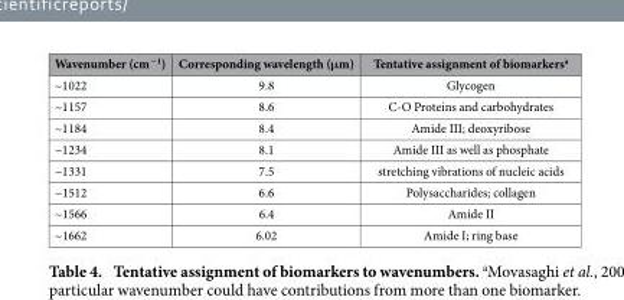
<table><thead><tr><td>Wavenumber (cm<sup>−1</sup>)</td><td>Corresponding wavelength (μm)</td><td>Tentative assignment of biomarkers<sup>a</sup></td></tr></thead><tbody><tr><td>~1022</td><td>9.8</td><td>Glycogen</td></tr><tr><td>~1157</td><td>8.6</td><td>C-O Proteins and carbohydrates</td></tr><tr><td>~1184</td><td>8.4</td><td>Amide III; deoxyribose</td></tr><tr><td>~1234</td><td>8.1</td><td>Amide III as well as phosphate</td></tr><tr><td>~1331</td><td>7.5</td><td>stretching vibrations of nucleic acids</td></tr><tr><td>~1512</td><td>6.6</td><td>Polysaccharides; collagen</td></tr><tr><td>~1566</td><td>6.4</td><td>Amide II</td></tr><tr><td>~1662</td><td>6.02</td><td>Amide I; ring base</td></tr></tbody></table>